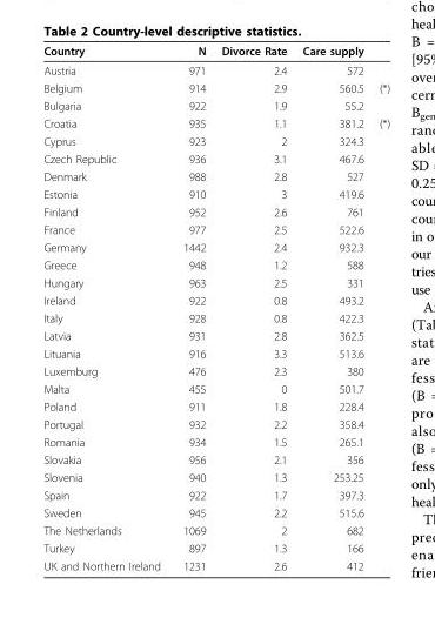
<table><thead><tr><td>Country</td><td>N</td><td>Divorce Rate</td><td>Care supply</td><td></td></tr></thead><tbody><tr><td>Austria</td><td>971</td><td>2.4</td><td>572</td><td></td></tr><tr><td>Belgium</td><td>914</td><td>2.9</td><td>560.5</td><td>(*)</td></tr><tr><td>Bulgaria</td><td>922</td><td>1.9</td><td>55.2</td><td></td></tr><tr><td>Croatia</td><td>935</td><td>1.1</td><td>381.2</td><td>(*)</td></tr><tr><td>Cyprus</td><td>923</td><td>2</td><td>324.3</td><td></td></tr><tr><td>Czech Republic</td><td>936</td><td>3.1</td><td>467.6</td><td></td></tr><tr><td>Denmark</td><td>988</td><td>2.8</td><td>527</td><td></td></tr><tr><td>Estonia</td><td>910</td><td>3</td><td>419.6</td><td></td></tr><tr><td>Finland</td><td>952</td><td>2.6</td><td>761</td><td></td></tr><tr><td>France</td><td>977</td><td>2.5</td><td>522.6</td><td></td></tr><tr><td>Germany</td><td>1442</td><td>2.4</td><td>932.3</td><td></td></tr><tr><td>Greece</td><td>948</td><td>1.2</td><td>588</td><td></td></tr><tr><td>Hungary</td><td>963</td><td>2.5</td><td>331</td><td></td></tr><tr><td>Ireland</td><td>922</td><td>0.8</td><td>493.2</td><td></td></tr><tr><td>Italy</td><td>928</td><td>0.8</td><td>422.3</td><td></td></tr><tr><td>Latvia</td><td>931</td><td>2.8</td><td>362.5</td><td></td></tr><tr><td>Lituania</td><td>916</td><td>3.3</td><td>513.6</td><td></td></tr><tr><td>Luxemburg</td><td>476</td><td>2.3</td><td>380</td><td></td></tr><tr><td>Malta</td><td>455</td><td>0</td><td>501.7</td><td></td></tr><tr><td>Poland</td><td>911</td><td>1.8</td><td>228.4</td><td></td></tr><tr><td>Portugal</td><td>932</td><td>2.2</td><td>358.4</td><td></td></tr><tr><td>Romania</td><td>934</td><td>1.5</td><td>265.1</td><td></td></tr><tr><td>Slovakia</td><td>956</td><td>2.1</td><td>356</td><td></td></tr><tr><td>Slovenia</td><td>940</td><td>1.3</td><td>253.25</td><td></td></tr><tr><td>Spain</td><td>922</td><td>1.7</td><td>397.3</td><td></td></tr><tr><td>Sweden</td><td>945</td><td>2.2</td><td>515.6</td><td></td></tr><tr><td>The Netherlands</td><td>1069</td><td>2</td><td>682</td><td></td></tr><tr><td>Turkey</td><td>897</td><td>1.3</td><td>166</td><td></td></tr><tr><td>UK and Northern Ireland</td><td>1231</td><td>2.6</td><td>412</td><td></td></tr></tbody></table>